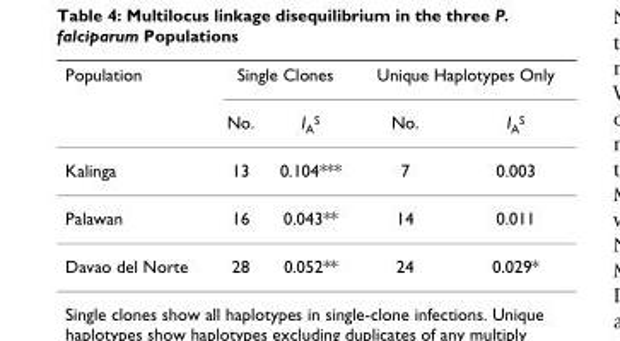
<table><thead><tr><td rowspan="2">Population</td><td colspan="2">Single Clones</td><td colspan="2">Unique Haplotypes Only</td></tr><tr><td>No.</td><td>I<sub>A</sub><sup>S</sup></td><td>No.</td><td>I<sub>A</sub><sup>S</sup></td></tr></thead><tbody><tr><td>Kalinga</td><td>13</td><td>0.104***</td><td>7</td><td>0.003</td></tr><tr><td>Palawan</td><td>16</td><td>0.043**</td><td>14</td><td>0.011</td></tr><tr><td>Davao del Norte</td><td>28</td><td>0.052**</td><td>24</td><td>0.029*</td></tr></tbody></table>